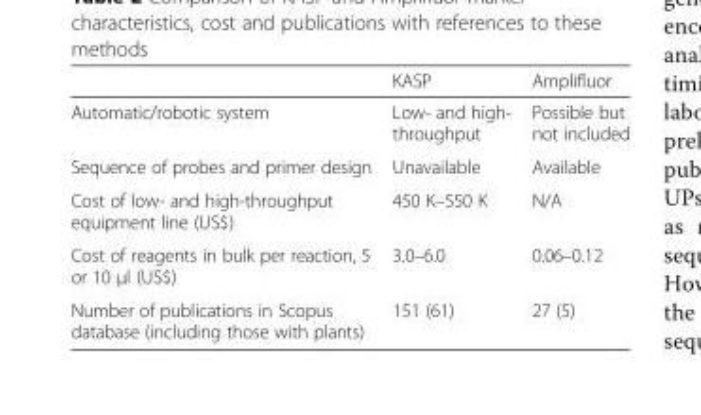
<table><thead><tr><td></td><td>KASP</td><td>Amplifluor</td></tr></thead><tbody><tr><td>Automatic/robotic system</td><td>Low- and high- throughput</td><td>Possible but not included</td></tr><tr><td>Sequence of probes and primer design</td><td>Unavailable</td><td>Available</td></tr><tr><td>Cost of low- and high-throughput equipment line (US$)</td><td>450 K–550 K</td><td>N/A</td></tr><tr><td>Cost of reagents in bulk per reaction, 5 or 10 μl (US$)</td><td>3.0–6.0</td><td>0.06–0.12</td></tr><tr><td>Number of publications in Scopus database (including those with plants)</td><td>151 (61)</td><td>27 (5)</td></tr></tbody></table>